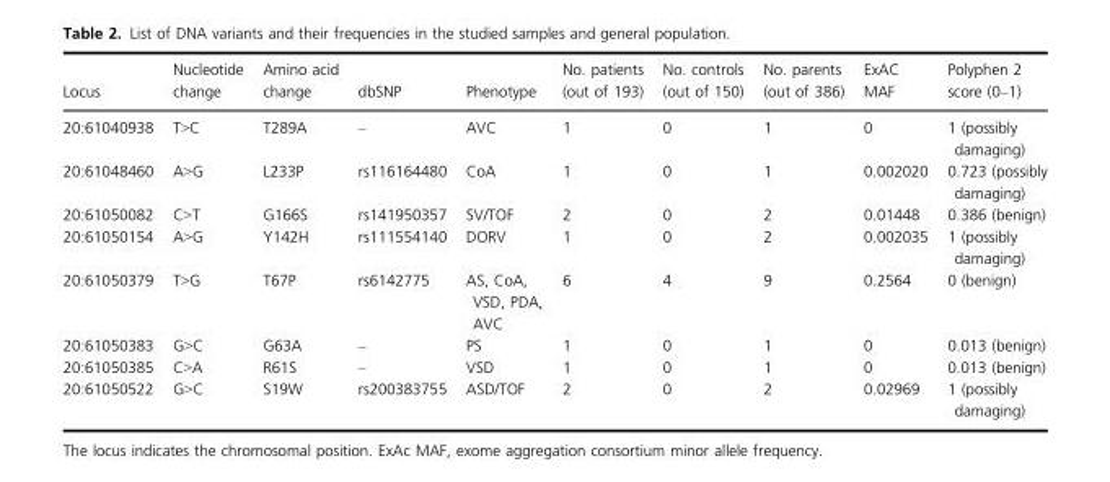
<table><thead><tr><td>Locus</td><td>Nucleotide change</td><td>Amino acid change</td><td>dbSNP</td><td>Phenotype</td><td>No. patients (out of 193)</td><td>No. controls (out of 150)</td><td>No. parents (out of 386)</td><td>ExAC MAF</td><td>Polyphen 2 score (0–1)</td></tr></thead><tbody><tr><td>20:61040938</td><td>T&gt;C</td><td>T289A</td><td>–</td><td>AVC</td><td>1</td><td>0</td><td>1</td><td>0</td><td>1 (possibly damaging)</td></tr><tr><td>20:61048460</td><td>A&gt;G</td><td>L233P</td><td>rs116164480</td><td>CoA</td><td>1</td><td>0</td><td>1</td><td>0.002020</td><td>0.723 (possibly damaging)</td></tr><tr><td>20:61050082</td><td>C&gt;T</td><td>G166S</td><td>rs141950357</td><td>SV/TOF</td><td>2</td><td>0</td><td>2</td><td>0.01448</td><td>0.386 (benign)</td></tr><tr><td>20:61050154</td><td>A&gt;G</td><td>Y142H</td><td>rs111554140</td><td>DORV</td><td>1</td><td>0</td><td>2</td><td>0.002035</td><td>1 (possibly damaging)</td></tr><tr><td>20:61050379</td><td>T&gt;G</td><td>T67P</td><td>rs6142775</td><td>AS, CoA, VSD, PDA, AVC</td><td>6</td><td>4</td><td>9</td><td>0.2564</td><td>0 (benign)</td></tr><tr><td>20:61050383</td><td>G&gt;C</td><td>G63A</td><td>–</td><td>PS</td><td>1</td><td>0</td><td>1</td><td>0</td><td>0.013 (benign)</td></tr><tr><td>20:61050385</td><td>C&gt;A</td><td>R61S</td><td>–</td><td>VSD</td><td>1</td><td>0</td><td>1</td><td>0</td><td>0.013 (benign)</td></tr><tr><td>20:61050522</td><td>G&gt;C</td><td>S19W</td><td>rs200383755</td><td>ASD/TOF</td><td>2</td><td>0</td><td>2</td><td>0.02969</td><td>1 (possibly damaging)</td></tr></tbody></table>